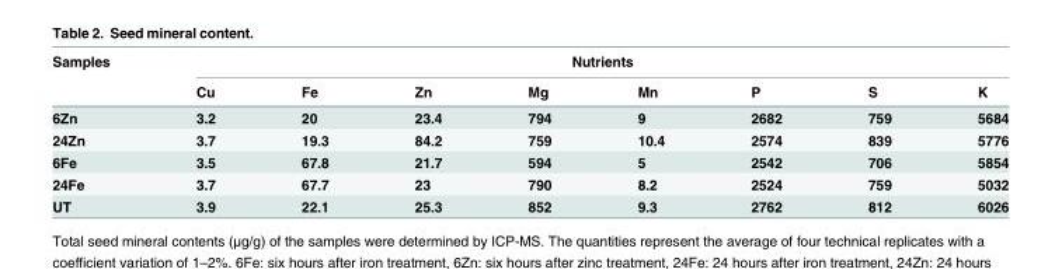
<table><thead><tr><td rowspan="2">Samples</td><td colspan="8">Nutrients</td></tr><tr><td>Cu</td><td>Fe</td><td>Zn</td><td>Mg</td><td>Mn</td><td>P</td><td>S</td><td>K</td></tr></thead><tbody><tr><td>6Zn</td><td>3.2</td><td>20</td><td>23.4</td><td>794</td><td>9</td><td>2682</td><td>759</td><td>5684</td></tr><tr><td>24Zn</td><td>3.7</td><td>19.3</td><td>84.2</td><td>759</td><td>10.4</td><td>2574</td><td>839</td><td>5776</td></tr><tr><td>6Fe</td><td>3.5</td><td>67.8</td><td>21.7</td><td>594</td><td>5</td><td>2542</td><td>706</td><td>5854</td></tr><tr><td>24Fe</td><td>3.7</td><td>67.7</td><td>23</td><td>790</td><td>8.2</td><td>2524</td><td>759</td><td>5032</td></tr><tr><td>UT</td><td>3.9</td><td>22.1</td><td>25.3</td><td>852</td><td>9.3</td><td>2762</td><td>812</td><td>6026</td></tr></tbody></table>